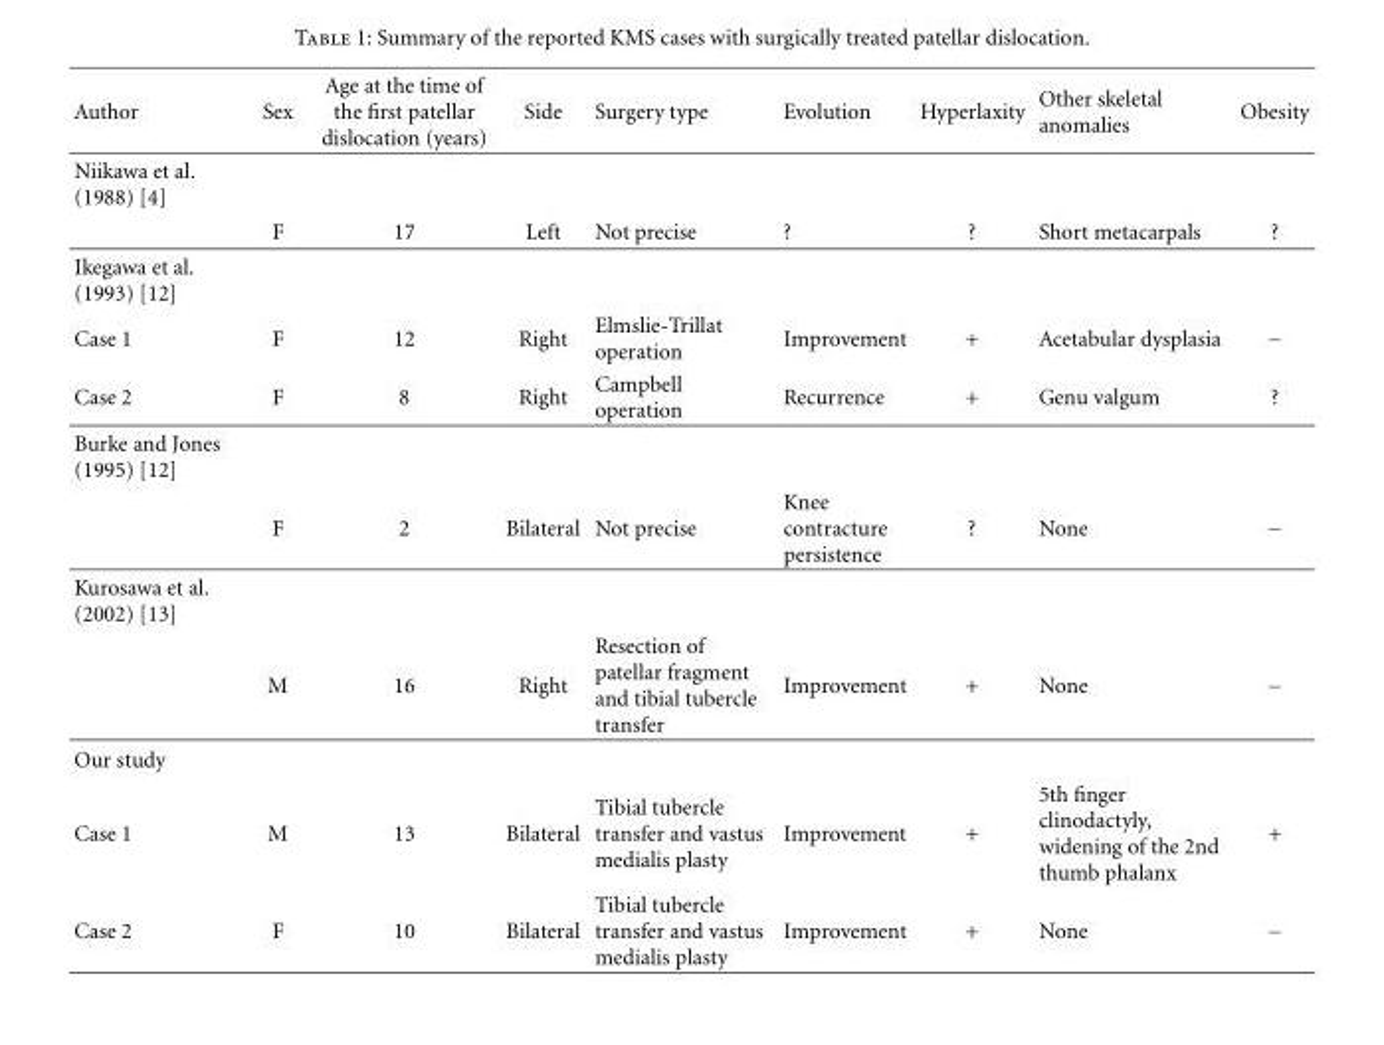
<table><thead><tr><td>Author</td><td>Sex</td><td>Age at the time of the first patellar dislocation (years)</td><td>Side</td><td>Surgery type</td><td>Evolution</td><td>Hyperlaxity</td><td>Other skeletal anomalies</td><td>Obesity</td></tr></thead><tbody><tr><td colspan="9">Niikawa et al. (1988) [4]</td></tr><tr><td></td><td>F</td><td>17</td><td>Left</td><td>Not precise</td><td>?</td><td>?</td><td>Short metacarpals</td><td>?</td></tr><tr><td colspan="9">Ikegawa et al. (1993) [12]</td></tr><tr><td>Case 1</td><td>F</td><td>12</td><td>Right</td><td>Elmslie-Trillat operation</td><td>Improvement</td><td>+</td><td>Acetabular dysplasia</td><td>−</td></tr><tr><td>Case 2</td><td>F</td><td>8</td><td>Right</td><td>Campbell operation</td><td>Recurrence</td><td>+</td><td>Genu valgum</td><td>?</td></tr><tr><td colspan="9">Burke and Jones (1995) [12]</td></tr><tr><td></td><td>F</td><td>2</td><td>Bilateral</td><td>Not precise</td><td>Knee contracture persistence</td><td>?</td><td>None</td><td>−</td></tr><tr><td colspan="9">Kurosawa et al. (2002) [13]</td></tr><tr><td></td><td>M</td><td>16</td><td>Right</td><td>Resection of patellar fragment and tibial tubercle transfer</td><td>Improvement</td><td>+</td><td>None</td><td>−</td></tr><tr><td colspan="9">Our study</td></tr><tr><td>Case 1</td><td>M</td><td>13</td><td>Bilateral</td><td>Tibial tubercle transfer and vastus medialis plasty</td><td>Improvement</td><td>+</td><td>5th finger clinodactyly, widening of the 2nd thumb phalanx</td><td>+</td></tr><tr><td>Case 2</td><td>F</td><td>10</td><td>Bilateral</td><td>Tibial tubercle transfer and vastus medialis plasty</td><td>Improvement</td><td>+</td><td>None</td><td>−</td></tr></tbody></table>